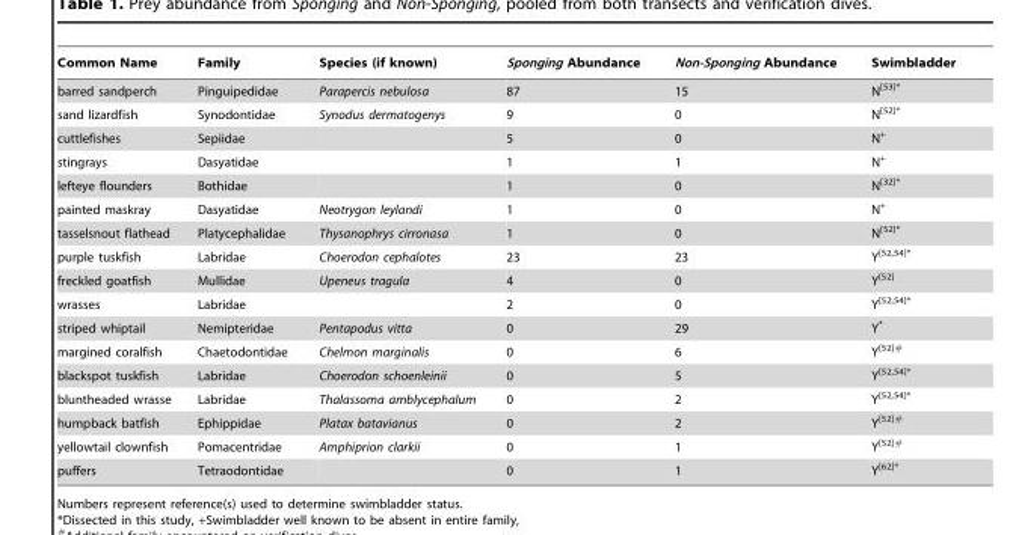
<table><thead><tr><td>Common Name</td><td>Family</td><td>Species (if known)</td><td>Sponging Abundance</td><td>Non-Sponging Abundance</td><td>Swimbladder</td></tr></thead><tbody><tr><td>barred sandperch</td><td>Pinguipedidae</td><td>Parapercis nebulosa</td><td>87</td><td>15</td><td>N<sup>[53]</sup>*</td></tr><tr><td>sand lizardfish</td><td>Synodontidae</td><td>Synodus dermatogenys</td><td>9</td><td>0</td><td>N<sup>[52]</sup>*</td></tr><tr><td>cuttlefishes</td><td>Sepiidae</td><td></td><td>5</td><td>0</td><td>N<sup>+</sup></td></tr><tr><td>stingrays</td><td>Dasyatidae</td><td></td><td>1</td><td>1</td><td>N<sup>+</sup></td></tr><tr><td>lefteye flounders</td><td>Bothidae</td><td></td><td>1</td><td>0</td><td>N<sup>[32]</sup>*</td></tr><tr><td>painted maskray</td><td>Dasyatidae</td><td>Neotrygon leylandi</td><td>1</td><td>0</td><td>N<sup>+</sup></td></tr><tr><td>tasselsnout flathead</td><td>Platycephalidae</td><td>Thysanophrys cirronasa</td><td>1</td><td>0</td><td>N<sup>[52]</sup>*</td></tr><tr><td>purple tuskfish</td><td>Labridae</td><td>Choerodon cephalotes</td><td>23</td><td>23</td><td>Y<sup>[52,54]</sup>*</td></tr><tr><td>freckled goatfish</td><td>Mullidae</td><td>Upeneus tragula</td><td>4</td><td>0</td><td>Y<sup>[52]</sup></td></tr><tr><td>wrasses</td><td>Labridae</td><td></td><td>2</td><td>0</td><td>Y<sup>[52,54]</sup>*</td></tr><tr><td>striped whiptail</td><td>Nemipteridae</td><td>Pentapodus vitta</td><td>0</td><td>29</td><td>Y*</td></tr><tr><td>margined coralfish</td><td>Chaetodontidae</td><td>Chelmon marginalis</td><td>0</td><td>6</td><td>Y<sup>[52]</sup>#</td></tr><tr><td>blackspot tuskfish</td><td>Labridae</td><td>Choerodon schoenleinii</td><td>0</td><td>5</td><td>Y<sup>[52,54]</sup>*</td></tr><tr><td>bluntheaded wrasse</td><td>Labridae</td><td>Thalassoma amblycephalum</td><td>0</td><td>2</td><td>Y<sup>[52,54]</sup>*</td></tr><tr><td>humpback batfish</td><td>Ephippidae</td><td>Platax batavianus</td><td>0</td><td>2</td><td>Y<sup>[52]</sup>#</td></tr><tr><td>yellowtail clownfish</td><td>Pomacentridae</td><td>Amphiprion clarkii</td><td>0</td><td>1</td><td>Y<sup>[52]</sup>#</td></tr><tr><td>puffers</td><td>Tetraodontidae</td><td></td><td>0</td><td>1</td><td>Y<sup>[62]</sup>*</td></tr></tbody></table>